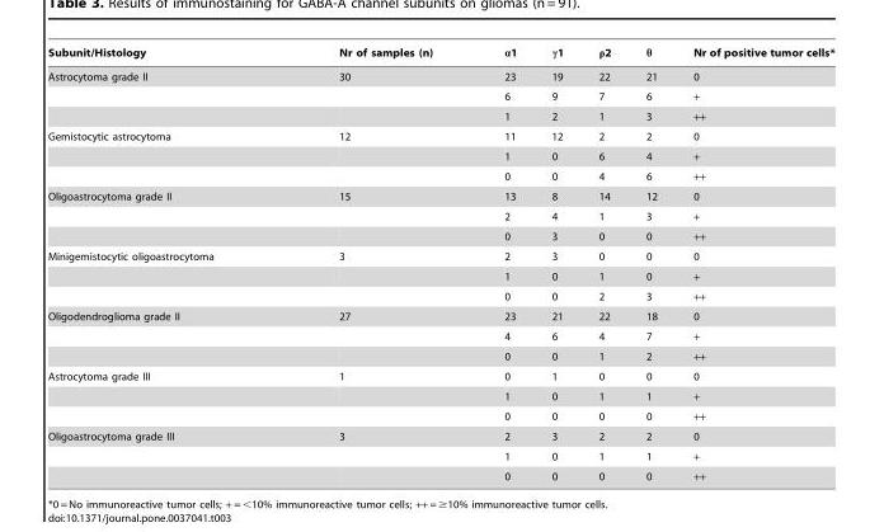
<table><thead><tr><td>Subunit/Histology</td><td>Nr of samples (n)</td><td>α1</td><td>γ1</td><td>ρ2</td><td>θ</td><td>Nr of positive tumor cells*</td></tr></thead><tbody><tr><td rowspan="3">Astrocytoma grade II</td><td>30</td><td>23</td><td>19</td><td>22</td><td>21</td><td>0</td></tr><tr><td></td><td>6</td><td>9</td><td>7</td><td>6</td><td>+</td></tr><tr><td></td><td>1</td><td>2</td><td>1</td><td>3</td><td>++</td></tr><tr><td rowspan="3">Gemistocytic astrocytoma</td><td>12</td><td>11</td><td>12</td><td>2</td><td>2</td><td>0</td></tr><tr><td></td><td>1</td><td>0</td><td>6</td><td>4</td><td>+</td></tr><tr><td></td><td>0</td><td>0</td><td>4</td><td>6</td><td>++</td></tr><tr><td rowspan="3">Oligoastrocytoma grade II</td><td>15</td><td>13</td><td>8</td><td>14</td><td>12</td><td>0</td></tr><tr><td></td><td>2</td><td>4</td><td>1</td><td>3</td><td>+</td></tr><tr><td></td><td>0</td><td>3</td><td>0</td><td>0</td><td>++</td></tr><tr><td rowspan="3">Minigemistocytic oligoastrocytoma</td><td>3</td><td>2</td><td>3</td><td>0</td><td>0</td><td>0</td></tr><tr><td></td><td>1</td><td>0</td><td>1</td><td>0</td><td>+</td></tr><tr><td></td><td>0</td><td>0</td><td>2</td><td>3</td><td>++</td></tr><tr><td rowspan="3">Oligodendroglioma grade II</td><td>27</td><td>23</td><td>21</td><td>22</td><td>18</td><td>0</td></tr><tr><td></td><td>4</td><td>6</td><td>4</td><td>7</td><td>+</td></tr><tr><td></td><td>0</td><td>0</td><td>1</td><td>2</td><td>++</td></tr><tr><td rowspan="3">Astrocytoma grade III</td><td>1</td><td>0</td><td>1</td><td>0</td><td>0</td><td>0</td></tr><tr><td></td><td>1</td><td>0</td><td>1</td><td>1</td><td>+</td></tr><tr><td></td><td>0</td><td>0</td><td>0</td><td>0</td><td>++</td></tr><tr><td rowspan="3">Oligoastrocytoma grade III</td><td>3</td><td>2</td><td>3</td><td>2</td><td>2</td><td>0</td></tr><tr><td></td><td>1</td><td>0</td><td>1</td><td>1</td><td>+</td></tr><tr><td></td><td>0</td><td>0</td><td>0</td><td>0</td><td>++</td></tr></tbody></table>